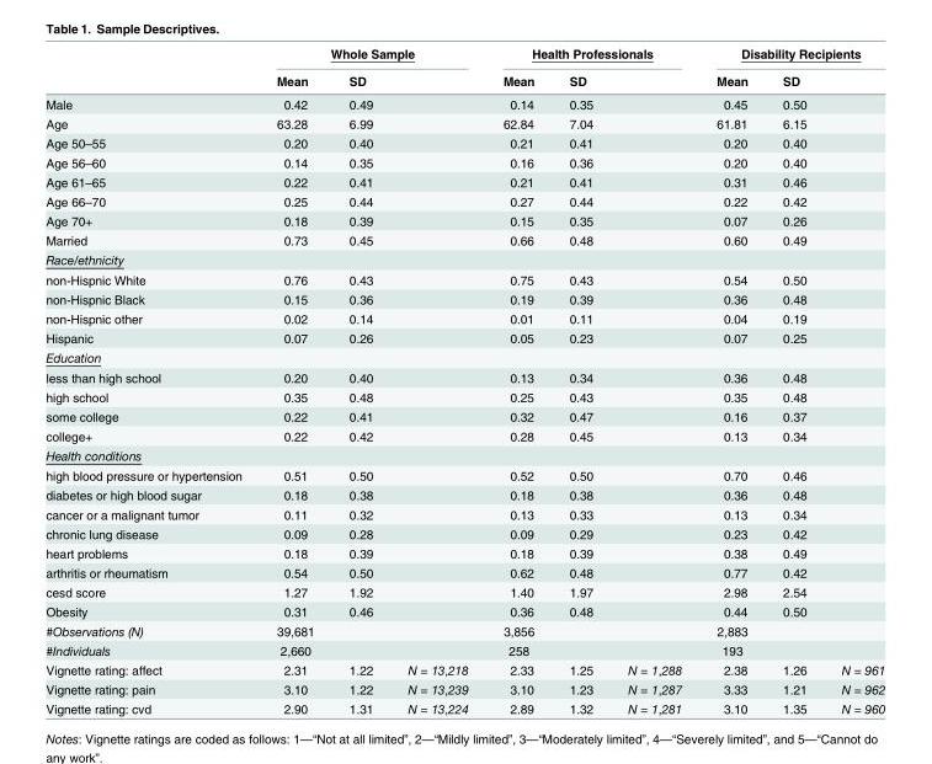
<table><thead><tr><td rowspan="2"></td><td colspan="3">Whole Sample</td><td colspan="3">Health Professionals</td><td colspan="3">Disability Recipients</td></tr><tr><td>Mean</td><td>SD</td><td></td><td>Mean</td><td>SD</td><td></td><td>Mean</td><td>SD</td><td></td></tr></thead><tbody><tr><td>Male</td><td>0.42</td><td>0.49</td><td></td><td>0.14</td><td>0.35</td><td></td><td>0.45</td><td>0.50</td><td></td></tr><tr><td>Age</td><td>63.28</td><td>6.99</td><td></td><td>62.84</td><td>7.04</td><td></td><td>61.81</td><td>6.15</td><td></td></tr><tr><td>Age 50–55</td><td>0.20</td><td>0.40</td><td></td><td>0.21</td><td>0.41</td><td></td><td>0.20</td><td>0.40</td><td></td></tr><tr><td>Age 56–60</td><td>0.14</td><td>0.35</td><td></td><td>0.16</td><td>0.36</td><td></td><td>0.20</td><td>0.40</td><td></td></tr><tr><td>Age 61–65</td><td>0.22</td><td>0.41</td><td></td><td>0.21</td><td>0.41</td><td></td><td>0.31</td><td>0.46</td><td></td></tr><tr><td>Age 66–70</td><td>0.25</td><td>0.44</td><td></td><td>0.27</td><td>0.44</td><td></td><td>0.22</td><td>0.42</td><td></td></tr><tr><td>Age 70+</td><td>0.18</td><td>0.39</td><td></td><td>0.15</td><td>0.35</td><td></td><td>0.07</td><td>0.26</td><td></td></tr><tr><td>Married</td><td>0.73</td><td>0.45</td><td></td><td>0.66</td><td>0.48</td><td></td><td>0.60</td><td>0.49</td><td></td></tr><tr><td colspan="10">Race/ethnicity</td></tr><tr><td>non-Hispnic White</td><td>0.76</td><td>0.43</td><td></td><td>0.75</td><td>0.43</td><td></td><td>0.54</td><td>0.50</td><td></td></tr><tr><td>non-Hispnic Black</td><td>0.15</td><td>0.36</td><td></td><td>0.19</td><td>0.39</td><td></td><td>0.36</td><td>0.48</td><td></td></tr><tr><td>non-Hispnic other</td><td>0.02</td><td>0.14</td><td></td><td>0.01</td><td>0.11</td><td></td><td>0.04</td><td>0.19</td><td></td></tr><tr><td>Hispanic</td><td>0.07</td><td>0.26</td><td></td><td>0.05</td><td>0.23</td><td></td><td>0.07</td><td>0.25</td><td></td></tr><tr><td colspan="10">Education</td></tr><tr><td>less than high school</td><td>0.20</td><td>0.40</td><td></td><td>0.13</td><td>0.34</td><td></td><td>0.36</td><td>0.48</td><td></td></tr><tr><td>high school</td><td>0.35</td><td>0.48</td><td></td><td>0.25</td><td>0.43</td><td></td><td>0.35</td><td>0.48</td><td></td></tr><tr><td>some college</td><td>0.22</td><td>0.41</td><td></td><td>0.32</td><td>0.47</td><td></td><td>0.16</td><td>0.37</td><td></td></tr><tr><td>college+</td><td>0.22</td><td>0.42</td><td></td><td>0.28</td><td>0.45</td><td></td><td>0.13</td><td>0.34</td><td></td></tr><tr><td colspan="10">Health conditions</td></tr><tr><td>high blood pressure or hypertension</td><td>0.51</td><td>0.50</td><td></td><td>0.52</td><td>0.50</td><td></td><td>0.70</td><td>0.46</td><td></td></tr><tr><td>diabetes or high blood sugar</td><td>0.18</td><td>0.38</td><td></td><td>0.18</td><td>0.38</td><td></td><td>0.36</td><td>0.48</td><td></td></tr><tr><td>cancer or a malignant tumor</td><td>0.11</td><td>0.32</td><td></td><td>0.13</td><td>0.33</td><td></td><td>0.13</td><td>0.34</td><td></td></tr><tr><td>chronic lung disease</td><td>0.09</td><td>0.28</td><td></td><td>0.09</td><td>0.29</td><td></td><td>0.23</td><td>0.42</td><td></td></tr><tr><td>heart problems</td><td>0.18</td><td>0.39</td><td></td><td>0.18</td><td>0.39</td><td></td><td>0.38</td><td>0.49</td><td></td></tr><tr><td>arthritis or rheumatism</td><td>0.54</td><td>0.50</td><td></td><td>0.62</td><td>0.48</td><td></td><td>0.77</td><td>0.42</td><td></td></tr><tr><td>cesd score</td><td>1.27</td><td>1.92</td><td></td><td>1.40</td><td>1.97</td><td></td><td>2.98</td><td>2.54</td><td></td></tr><tr><td>Obesity</td><td>0.31</td><td>0.46</td><td></td><td>0.36</td><td>0.48</td><td></td><td>0.44</td><td>0.50</td><td></td></tr><tr><td>#Observations (N)</td><td>39,681</td><td></td><td></td><td>3,856</td><td></td><td></td><td>2,883</td><td></td><td></td></tr><tr><td>#Individuals</td><td>2,660</td><td></td><td></td><td>258</td><td></td><td></td><td>193</td><td></td><td></td></tr><tr><td>Vignette rating: affect</td><td>2.31</td><td>1.22</td><td>N = 13,218</td><td>2.33</td><td>1.25</td><td>N = 1,288</td><td>2.38</td><td>1.26</td><td>N = 961</td></tr><tr><td>Vignette rating: pain</td><td>3.10</td><td>1.22</td><td>N = 13,239</td><td>3.10</td><td>1.23</td><td>N = 1,287</td><td>3.33</td><td>1.21</td><td>N = 962</td></tr><tr><td>Vignette rating: cvd</td><td>2.90</td><td>1.31</td><td>N = 13,224</td><td>2.89</td><td>1.32</td><td>N = 1,281</td><td>3.10</td><td>1.35</td><td>N = 960</td></tr></tbody></table>